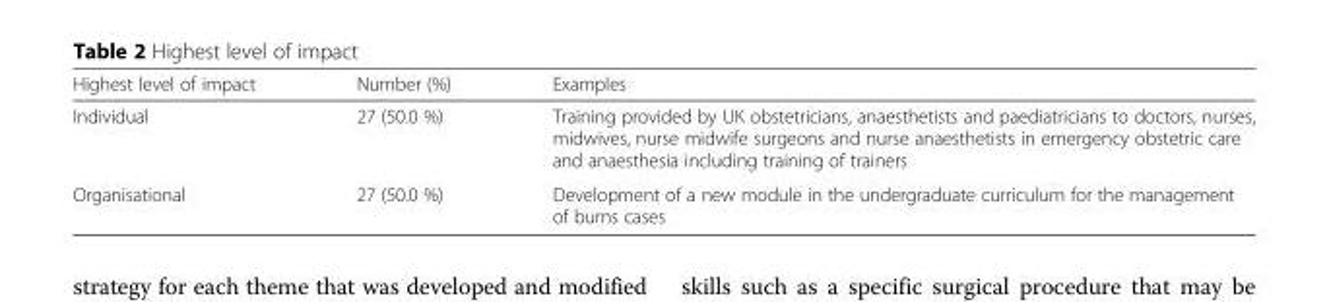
<table><thead><tr><td>Highest level of impact</td><td>Number (%)</td><td>Examples</td></tr></thead><tbody><tr><td>Individual</td><td>27 (50.0 %)</td><td>Training provided by UK obstetricians, anaesthetists and paediatricians to doctors, nurses, midwives, nurse midwife surgeons and nurse anaesthetists in emergency obstetric care and anaesthesia including training of trainers</td></tr><tr><td>Organisational</td><td>27 (50.0 %)</td><td>Development of a new module in the undergraduate curriculum for the management of burns cases</td></tr></tbody></table>